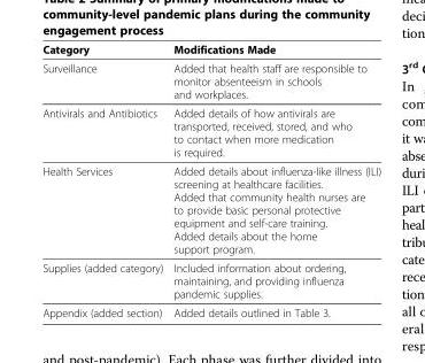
<table><thead><tr><td>Category</td><td>Modifications Made</td></tr></thead><tbody><tr><td>Surveillance</td><td>Added that health staff are responsible to monitor absenteeism in schools and workplaces.</td></tr><tr><td>Antivirals and Antibiotics</td><td>Added details of how antivirals are transported, received, stored, and who to contact when more medication is required.</td></tr><tr><td>Health Services</td><td>Added details about influenza-like illness (ILI) screening at healthcare facilities. Added that community health nurses are to provide basic personal protective equipment and self-care training. Added details about the home support program.</td></tr><tr><td>Supplies (added category)</td><td>Included information about ordering, maintaining, and providing influenza pandemic supplies.</td></tr><tr><td>Appendix (added section)</td><td>Added details outlined in Table 3.</td></tr></tbody></table>